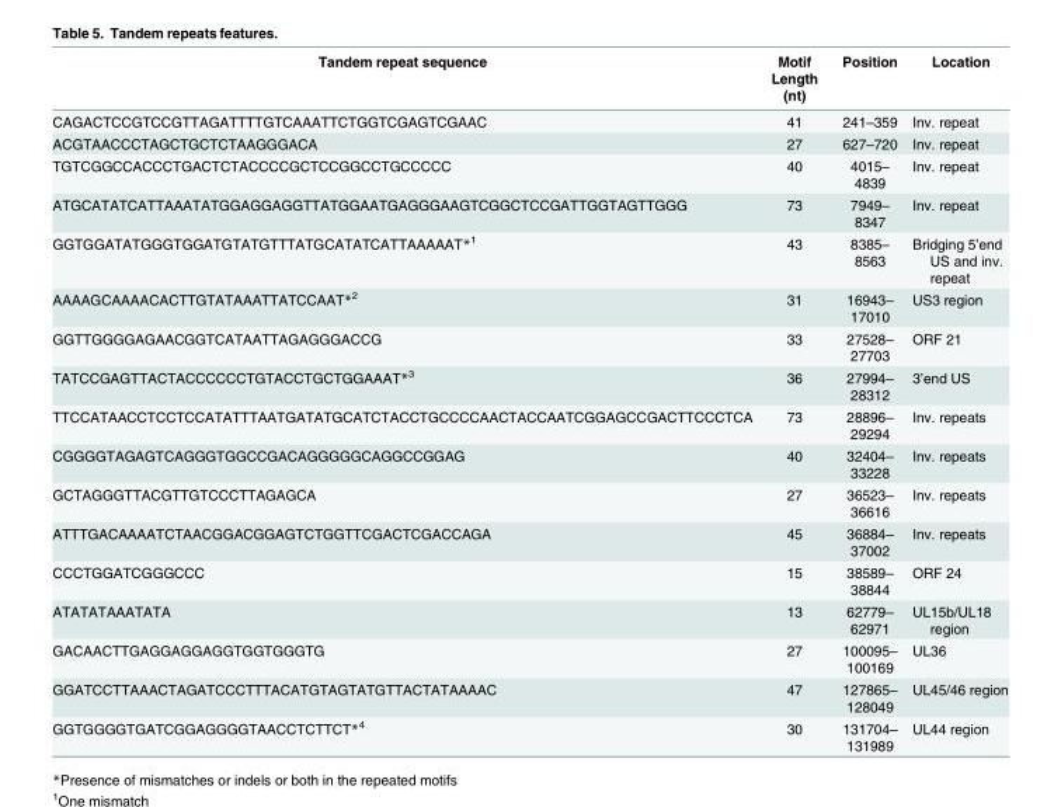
<table><thead><tr><td>Tandem repeat sequence</td><td>Motif Length (nt)</td><td>Position</td><td>Location</td></tr></thead><tbody><tr><td>CAGACTCCGTCCGTTAGATTTTGTCAAATTCTGGTCGAGTCGAAC</td><td>41</td><td>241–359</td><td>Inv. repeat</td></tr><tr><td>ACGTAACCCTAGCTGCTCTAAGGGACA</td><td>27</td><td>627–720</td><td>Inv. repeat</td></tr><tr><td>TGTCGGCCACCCTGACTCTACCCCGCTCCGGCCTGCCCCC</td><td>40</td><td>4015– 4839</td><td>Inv. repeat</td></tr><tr><td>ATGCATATCATTAAATATGGAGGAGGTTATGGAATGAGGGAAGTCGGCTCCGATTGGTAGTTGGG</td><td>73</td><td>7949– 8347</td><td>Inv. repeat</td></tr><tr><td>GGTGGATATGGGTGGATGTATGTTTATGCATATCATTAAAAAT*<sup>1</sup></td><td>43</td><td>8385– 8563</td><td>Bridging 5’end US and inv. repeat</td></tr><tr><td>AAAAGCAAAACACTTGTATAAATTATCCAAT*<sup>2</sup></td><td>31</td><td>16943– 17010</td><td>US3 region</td></tr><tr><td>GGTTGGGGAGAACGGTCATAATTAGAGGGACCG</td><td>33</td><td>27528– 27703</td><td>ORF 21</td></tr><tr><td>TATCCGAGTTACTACCCCCCTGTACCTGCTGGAAAT*<sup>3</sup></td><td>36</td><td>27994– 28312</td><td>3’end US</td></tr><tr><td>TTCCATAACCTCCTCCATATTTAATGATATGCATCTACCTGCCCCAACTACCAATCGGAGCCGACTTCCCTCA</td><td>73</td><td>28896– 29294</td><td>Inv. repeats</td></tr><tr><td>CGGGGTAGAGTCAGGGTGGCCGACAGGGGGCAGGCCGGAG</td><td>40</td><td>32404– 33228</td><td>Inv. repeats</td></tr><tr><td>GCTAGGGTTACGTTGTCCCTTAGAGCA</td><td>27</td><td>36523– 36616</td><td>Inv. repeats</td></tr><tr><td>ATTTGACAAAATCTAACGGACGGAGTCTGGTTCGACTCGACCAGA</td><td>45</td><td>36884– 37002</td><td>Inv. repeats</td></tr><tr><td>CCCTGGATCGGGCCC</td><td>15</td><td>38589– 38844</td><td>ORF 24</td></tr><tr><td>ATATATAAATATA</td><td>13</td><td>62779– 62971</td><td>UL15b/UL18 region</td></tr><tr><td>GACAACTTGAGGAGGAGGTGGTGGGTG</td><td>27</td><td>100095– 100169</td><td>UL36</td></tr><tr><td>GGATCCTTAAACTAGATCCCTTTACATGTAGTATGTTACTATAAAAC</td><td>47</td><td>127865– 128049</td><td>UL45/46 region</td></tr><tr><td>GGTGGGGTGATCGGAGGGGTAACCTCTTCT*<sup>4</sup></td><td>30</td><td>131704– 131989</td><td>UL44 region</td></tr></tbody></table>